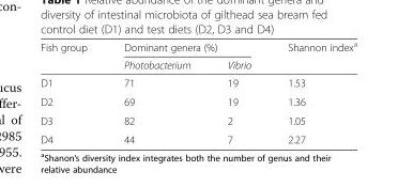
<table><thead><tr><td rowspan="2">Fish group</td><td colspan="2">Dominant genera (%)</td><td rowspan="2">Shannon index<sup>a</sup></td></tr><tr><td>Photobacterium</td><td>Vibrio</td></tr></thead><tbody><tr><td>D1</td><td>71</td><td>19</td><td>1.53</td></tr><tr><td>D2</td><td>69</td><td>19</td><td>1.36</td></tr><tr><td>D3</td><td>82</td><td>2</td><td>1.05</td></tr><tr><td>D4</td><td>44</td><td>7</td><td>2.27</td></tr></tbody></table>